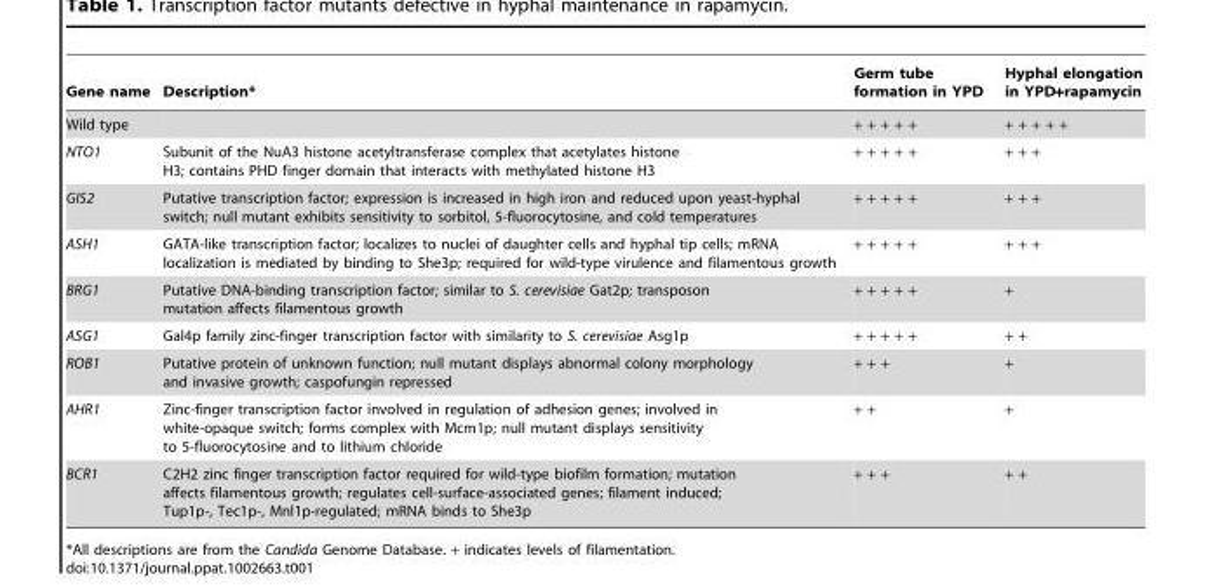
<table><thead><tr><td>Gene name</td><td>Description*</td><td>Germ tube formation in YPD</td><td>Hyphal elongation in YPD+rapamycin</td></tr></thead><tbody><tr><td>Wild type</td><td></td><td>+ + + + +</td><td>+ + + + +</td></tr><tr><td>NTO1</td><td>Subunit of the NuA3 histone acetyltransferase complex that acetylates histone H3; contains PHD finger domain that interacts with methylated histone H3</td><td>+ + + + +</td><td>+ + +</td></tr><tr><td>GIS2</td><td>Putative transcription factor; expression is increased in high iron and reduced upon yeast-hyphal switch; null mutant exhibits sensitivity to sorbitol, 5-fluorocytosine, and cold temperatures</td><td>+ + + + +</td><td>+ + +</td></tr><tr><td>ASH1</td><td>GATA-like transcription factor; localizes to nuclei of daughter cells and hyphal tip cells; mRNA localization is mediated by binding to She3p; required for wild-type virulence and filamentous growth</td><td>+ + + + +</td><td>+ + +</td></tr><tr><td>BRG1</td><td>Putative DNA-binding transcription factor; similar to S. cerevisiae Gat2p; transposon mutation affects filamentous growth</td><td>+ + + + +</td><td>+</td></tr><tr><td>ASG1</td><td>Gal4p family zinc-finger transcription factor with similarity to S. cerevisiae Asg1p</td><td>+ + + + +</td><td>+ +</td></tr><tr><td>ROB1</td><td>Putative protein of unknown function; null mutant displays abnormal colony morphology and invasive growth; caspofungin repressed</td><td>+ + +</td><td>+</td></tr><tr><td>AHR1</td><td>Zinc-finger transcription factor involved in regulation of adhesion genes; involved in white-opaque switch; forms complex with Mcm1p; null mutant displays sensitivity to 5-fluorocytosine and to lithium chloride</td><td>+ +</td><td>+</td></tr><tr><td>BCR1</td><td>C2H2 zinc finger transcription factor required for wild-type biofilm formation; mutation affects filamentous growth; regulates cell-surface-associated genes; filament induced; Tup1p-, Tec1p-, Mnl1p-regulated; mRNA binds to She3p</td><td>+ + +</td><td>+ +</td></tr></tbody></table>